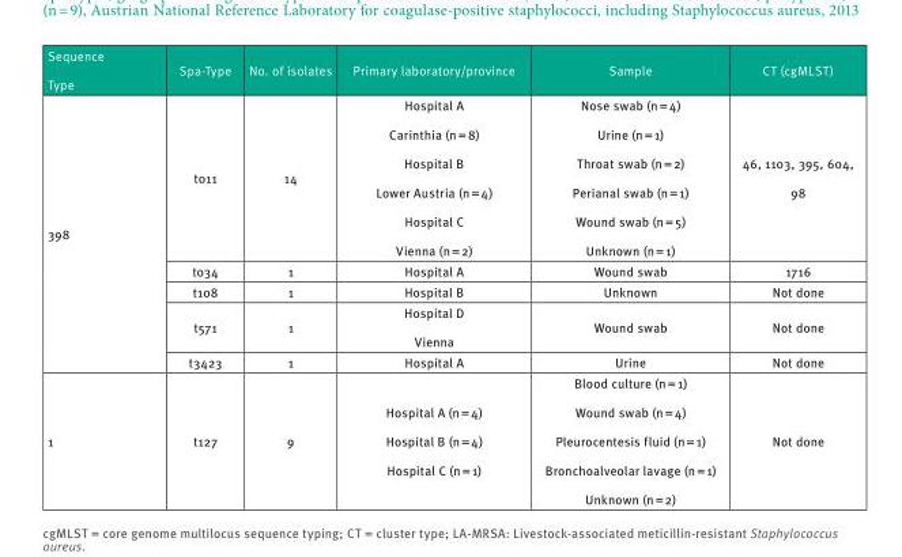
<table><thead><tr><td>Sequence Type</td><td>Spa-Type</td><td>No. of isolates</td><td>Primary laboratory/province</td><td>Sample</td><td>CT (cgMLST)</td></tr></thead><tbody><tr><td rowspan="5">398</td><td>t011</td><td>14</td><td>Hospital A Carinthia (n = 8) Hospital B Lower Austria (n = 4) Hospital C Vienna (n = 2)</td><td>Nose swab (n = 4) Urine (n = 1) Throat swab (n = 2) Perianal swab (n = 1) Wound swab (n = 5) Unknown (n = 1)</td><td>46, 1103, 395, 604, 98</td></tr><tr><td>t034</td><td>1</td><td>Hospital A</td><td>Wound swab</td><td>1716</td></tr><tr><td>t108</td><td>1</td><td>Hospital B</td><td>Unknown</td><td>Not done</td></tr><tr><td>t571</td><td>1</td><td>Hospital D Vienna</td><td>Wound swab</td><td>Not done</td></tr><tr><td>t3423</td><td>1</td><td>Hospital A</td><td>Urine</td><td>Not done</td></tr><tr><td>1</td><td>t127</td><td>9</td><td>Hospital A (n = 4) Hospital B (n = 4) Hospital C (n = 1)</td><td>Blood culture (n = 1) Wound swab (n = 4) Pleurocentesis fluid (n = 1) Bronchoalveolar lavage (n = 1) Unknown (n = 2)</td><td>Not done</td></tr></tbody></table>